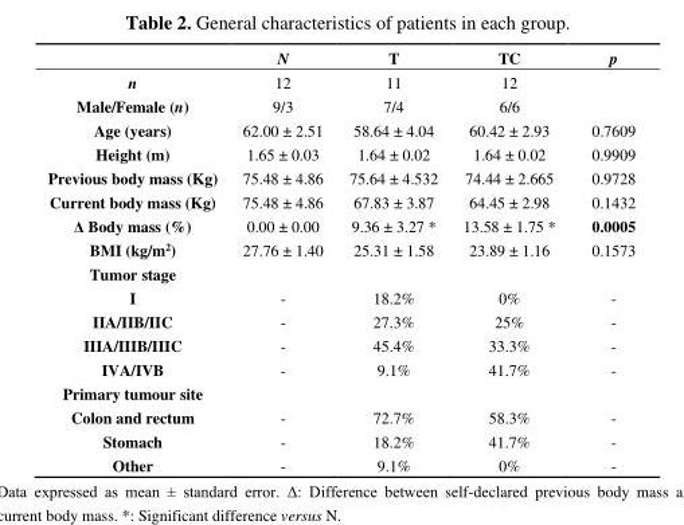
<table><thead><tr><td></td><td>N</td><td>T</td><td>TC</td><td>p</td></tr></thead><tbody><tr><td>n</td><td>12</td><td>11</td><td>12</td><td></td></tr><tr><td>Male/Female (n)</td><td>9/3</td><td>7/4</td><td>6/6</td><td></td></tr><tr><td>Age (years)</td><td>62.00 ± 2.51</td><td>58.64 ± 4.04</td><td>60.42 ± 2.93</td><td>0.7609</td></tr><tr><td>Height (m)</td><td>1.65 ± 0.03</td><td>1.64 ± 0.02</td><td>1.64 ± 0.02</td><td>0.9909</td></tr><tr><td>Previous body mass (Kg)</td><td>75.48 ± 4.86</td><td>75.64 ± 4.532</td><td>74.44 ± 2.665</td><td>0.9728</td></tr><tr><td>Current body mass (Kg)</td><td>75.48 ± 4.86</td><td>67.83 ± 3.87</td><td>64.45 ± 2.98</td><td>0.1432</td></tr><tr><td>Δ Body mass (%)</td><td>0.00 ± 0.00</td><td>9.36 ± 3.27 *</td><td>13.58 ± 1.75 *</td><td>0.0005</td></tr><tr><td>BMI (kg/m<sup>2</sup>)</td><td>27.76 ± 1.40</td><td>25.31 ± 1.58</td><td>23.89 ± 1.16</td><td>0.1573</td></tr><tr><td colspan="5">Tumor stage</td></tr><tr><td>I</td><td>-</td><td>18.2%</td><td>0%</td><td>-</td></tr><tr><td>IIA/IIB/IIC</td><td>-</td><td>27.3%</td><td>25%</td><td>-</td></tr><tr><td>IIIA/IIIB/IIIC</td><td>-</td><td>45.4%</td><td>33.3%</td><td>-</td></tr><tr><td>IVA/IVB</td><td>-</td><td>9.1%</td><td>41.7%</td><td>-</td></tr><tr><td colspan="5">Primary tumour site</td></tr><tr><td>Colon and rectum</td><td>-</td><td>72.7%</td><td>58.3%</td><td>-</td></tr><tr><td>Stomach</td><td>-</td><td>18.2%</td><td>41.7%</td><td>-</td></tr><tr><td>Other</td><td>-</td><td>9.1%</td><td>0%</td><td>-</td></tr></tbody></table>